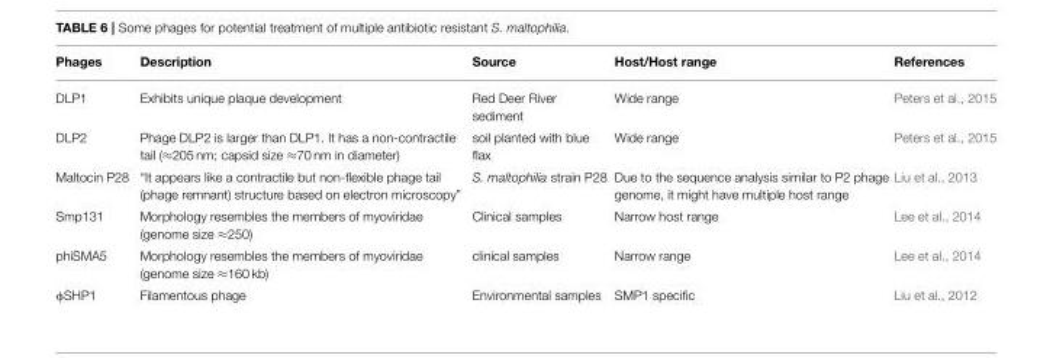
<table><thead><tr><td>Phages</td><td>Description</td><td>Source</td><td>Host/Host range</td><td>References</td></tr></thead><tbody><tr><td>DLP1</td><td>Exhibits unique plaque development</td><td>Red Deer River sediment</td><td>Wide range</td><td>Peters et al., 2015</td></tr><tr><td>DLP2</td><td>Phage DLP2 is larger than DLP1. It has a non-contractile tail (≈205 nm; capsid size ≈70 nm in diameter)</td><td>soil planted with blue flax</td><td>Wide range</td><td>Peters et al., 2015</td></tr><tr><td>Maltocin P28</td><td>“It appears like a contractile but non-flexible phage tail (phage remnant) structure based on electron microscopy”</td><td>S. maltophilia strain P28</td><td>Due to the sequence analysis similar to P2 phage genome, it might have multiple host range</td><td>Liu et al., 2013</td></tr><tr><td>Smp131</td><td>Morphology resembles the members of myoviridae (genome size ≈250)</td><td>Clinical samples</td><td>Narrow host range</td><td>Lee et al., 2014</td></tr><tr><td>phiSMA5</td><td>Morphology resembles the members of myoviridae (genome size ≈160 kb)</td><td>clinical samples</td><td>Narrow range</td><td>Lee et al., 2014</td></tr><tr><td>φSHP1</td><td>Filamentous phage</td><td>Environmental samples</td><td>SMP1 specific</td><td>Liu et al., 2012</td></tr></tbody></table>